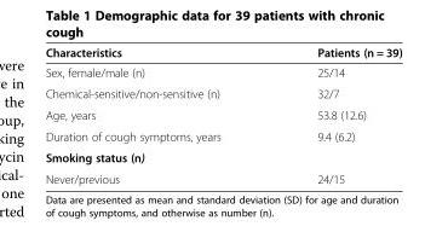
<table><thead><tr><td>Characteristics</td><td>Patients (n = 39)</td></tr></thead><tbody><tr><td>Sex, female/male (n)</td><td>25/14</td></tr><tr><td>Chemical-sensitive/non-sensitive (n)</td><td>32/7</td></tr><tr><td>Age, years</td><td>53.8 (12.6)</td></tr><tr><td>Duration of cough symptoms, years</td><td>9.4 (6.2)</td></tr><tr><td colspan="2">Smoking status (n)</td></tr><tr><td>Never/previous</td><td>24/15</td></tr></tbody></table>